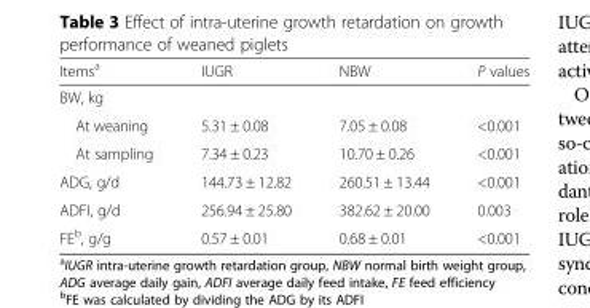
<table><thead><tr><td>Items<sup>a</sup></td><td>IUGR</td><td>NBW</td><td>P values</td></tr></thead><tbody><tr><td colspan="4">BW, kg</td></tr><tr><td>At weaning</td><td>5.31 ± 0.08</td><td>7.05 ± 0.08</td><td>&lt;0.001</td></tr><tr><td>At sampling</td><td>7.34 ± 0.23</td><td>10.70 ± 0.26</td><td>&lt;0.001</td></tr><tr><td>ADG, g/d</td><td>144.73 ± 12.82</td><td>260.51 ± 13.44</td><td>&lt;0.001</td></tr><tr><td>ADFI, g/d</td><td>256.94 ± 25.80</td><td>382.62 ± 20.00</td><td>0.003</td></tr><tr><td>FE<sup>b</sup>, g/g</td><td>0.57 ± 0.01</td><td>0.68 ± 0.01</td><td>&lt;0.001</td></tr></tbody></table>